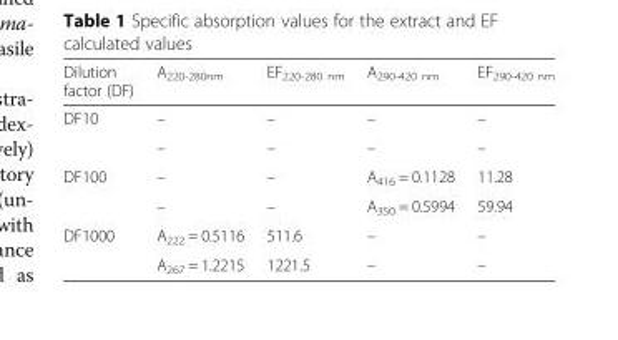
<table><thead><tr><td>Dilution factor (DF)</td><td>A<sub>220-280nm</sub></td><td>EF<sub>220-280 nm</sub></td><td>A<sub>290-420 nm</sub></td><td>EF<sub>290-420 nm</sub></td></tr></thead><tbody><tr><td rowspan="2">DF10</td><td>–</td><td>–</td><td>–</td><td>–</td></tr><tr><td>–</td><td>–</td><td>–</td><td>–</td></tr><tr><td rowspan="2">DF100</td><td>–</td><td>–</td><td>A<sub>416</sub> = 0.1128</td><td>11.28</td></tr><tr><td>–</td><td>–</td><td>A<sub>350</sub> = 0.5994</td><td>59.94</td></tr><tr><td rowspan="2">DF1000</td><td>A<sub>222</sub> = 0.5116</td><td>511.6</td><td>–</td><td>–</td></tr><tr><td>A<sub>267</sub> = 1.2215</td><td>1221.5</td><td>–</td><td>–</td></tr></tbody></table>